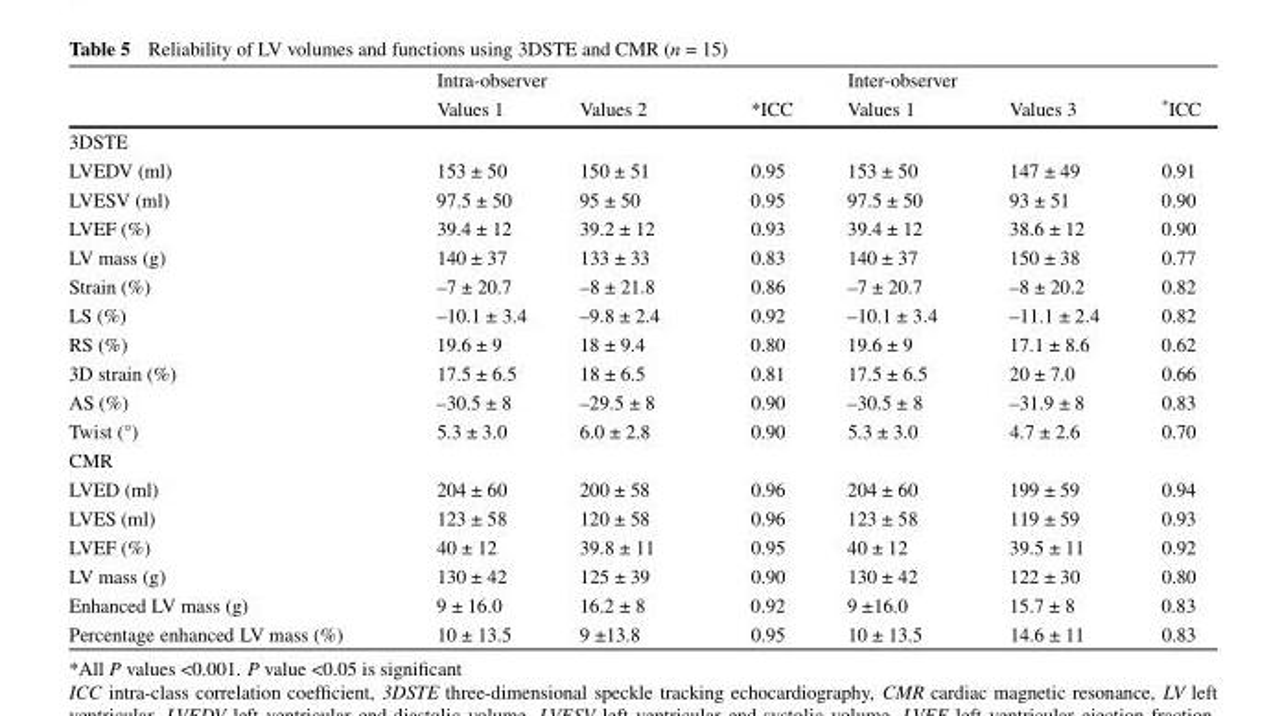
<table><thead><tr><td rowspan="2"></td><td colspan="3">Intra-observer</td><td colspan="3">Inter-observer</td></tr><tr><td>Values 1</td><td>Values 2</td><td>*ICC</td><td>Values 1</td><td>Values 3</td><td>*ICC</td></tr></thead><tbody><tr><td colspan="7">3DSTE</td></tr><tr><td>LVEDV (ml)</td><td>153 ± 50</td><td>150 ± 51</td><td>0.95</td><td>153 ± 50</td><td>147 ± 49</td><td>0.91</td></tr><tr><td>LVESV (ml)</td><td>97.5 ± 50</td><td>95 ± 50</td><td>0.95</td><td>97.5 ± 50</td><td>93 ± 51</td><td>0.90</td></tr><tr><td>LVEF (%)</td><td>39.4 ± 12</td><td>39.2 ± 12</td><td>0.93</td><td>39.4 ± 12</td><td>38.6 ± 12</td><td>0.90</td></tr><tr><td>LV mass (g)</td><td>140 ± 37</td><td>133 ± 33</td><td>0.83</td><td>140 ± 37</td><td>150 ± 38</td><td>0.77</td></tr><tr><td>Strain (%)</td><td>–7 ± 20.7</td><td>–8 ± 21.8</td><td>0.86</td><td>–7 ± 20.7</td><td>–8 ± 20.2</td><td>0.82</td></tr><tr><td>LS (%)</td><td>–10.1 ± 3.4</td><td>–9.8 ± 2.4</td><td>0.92</td><td>–10.1 ± 3.4</td><td>–11.1 ± 2.4</td><td>0.82</td></tr><tr><td>RS (%)</td><td>19.6 ± 9</td><td>18 ± 9.4</td><td>0.80</td><td>19.6 ± 9</td><td>17.1 ± 8.6</td><td>0.62</td></tr><tr><td>3D strain (%)</td><td>17.5 ± 6.5</td><td>18 ± 6.5</td><td>0.81</td><td>17.5 ± 6.5</td><td>20 ± 7.0</td><td>0.66</td></tr><tr><td>AS (%)</td><td>–30.5 ± 8</td><td>–29.5 ± 8</td><td>0.90</td><td>–30.5 ± 8</td><td>–31.9 ± 8</td><td>0.83</td></tr><tr><td>Twist (°)</td><td>5.3 ± 3.0</td><td>6.0 ± 2.8</td><td>0.90</td><td>5.3 ± 3.0</td><td>4.7 ± 2.6</td><td>0.70</td></tr><tr><td colspan="7">CMR</td></tr><tr><td>LVED (ml)</td><td>204 ± 60</td><td>200 ± 58</td><td>0.96</td><td>204 ± 60</td><td>199 ± 59</td><td>0.94</td></tr><tr><td>LVES (ml)</td><td>123 ± 58</td><td>120 ± 58</td><td>0.96</td><td>123 ± 58</td><td>119 ± 59</td><td>0.93</td></tr><tr><td>LVEF (%)</td><td>40 ± 12</td><td>39.8 ± 11</td><td>0.95</td><td>40 ± 12</td><td>39.5 ± 11</td><td>0.92</td></tr><tr><td>LV mass (g)</td><td>130 ± 42</td><td>125 ± 39</td><td>0.90</td><td>130 ± 42</td><td>122 ± 30</td><td>0.80</td></tr><tr><td>Enhanced LV mass (g)</td><td>9 ± 16.0</td><td>16.2 ± 8</td><td>0.92</td><td>9 ±16.0</td><td>15.7 ± 8</td><td>0.83</td></tr><tr><td>Percentage enhanced LV mass (%)</td><td>10 ± 13.5</td><td>9 ±13.8</td><td>0.95</td><td>10 ± 13.5</td><td>14.6 ± 11</td><td>0.83</td></tr></tbody></table>